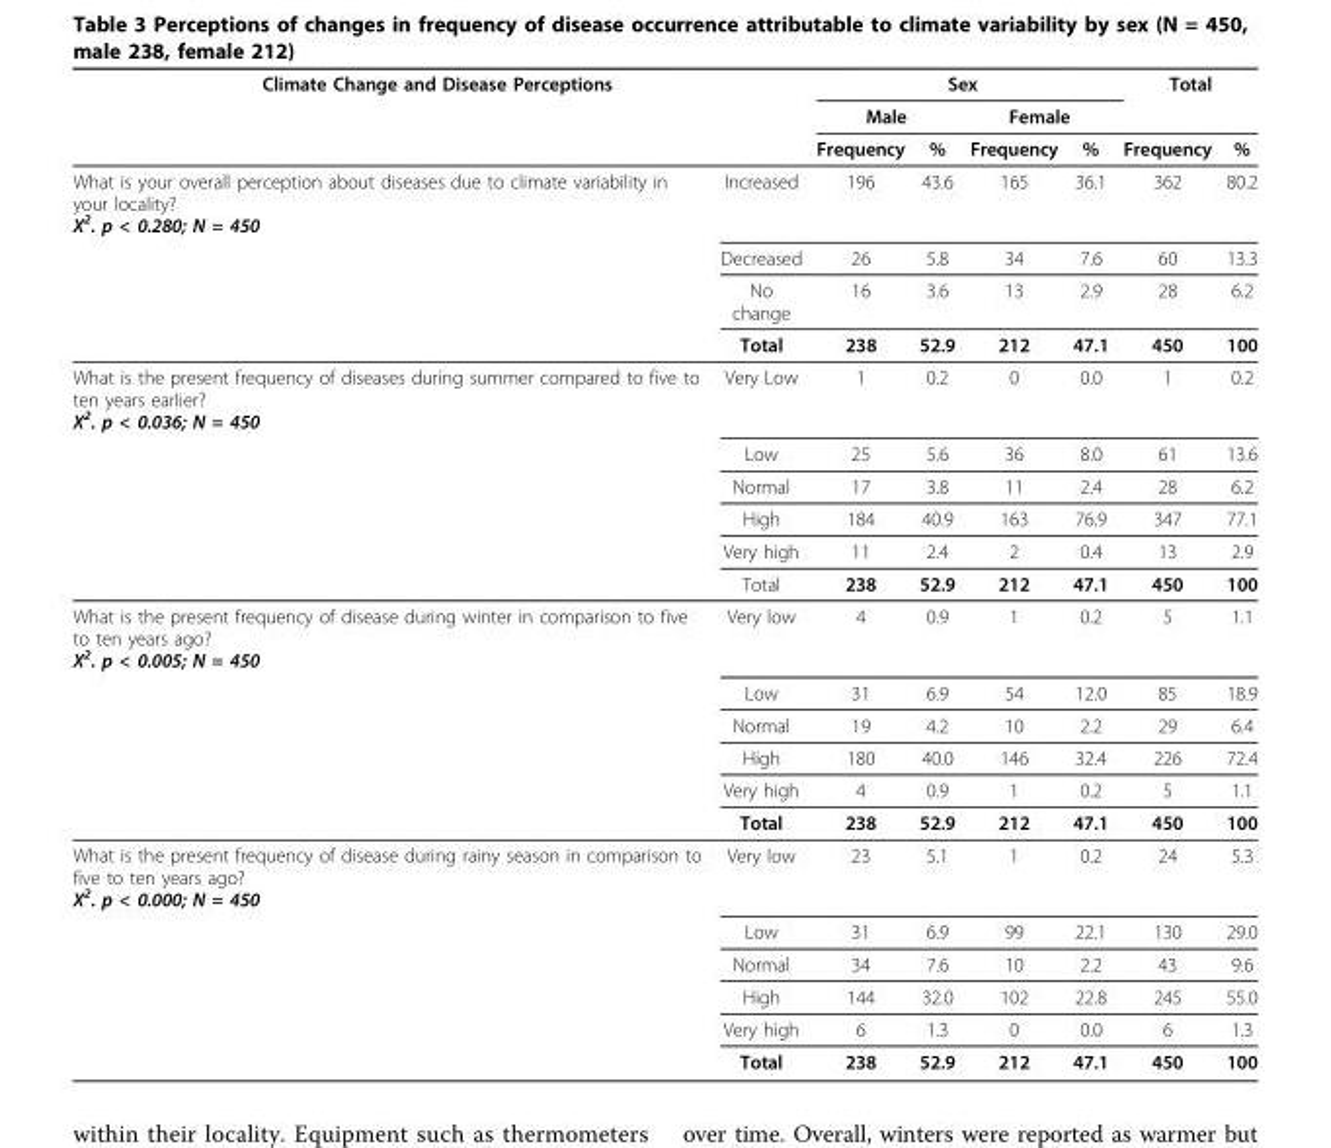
<table><thead><tr><td colspan="2">Climate Change and Disease Perceptions</td><td colspan="4">Sex</td><td colspan="2">Total</td></tr><tr><td rowspan="2"></td><td rowspan="2"></td><td colspan="2">Male</td><td colspan="2">Female</td><td rowspan="2">Frequency</td><td rowspan="2">%</td></tr><tr><td>Frequency</td><td>%</td><td>Frequency</td><td>%</td></tr></thead><tbody><tr><td rowspan="4">What is your overall perception about diseases due to climate variability in your locality? Χ2. p &lt; 0.280; N = 450</td><td>Increased</td><td>196</td><td>43.6</td><td>165</td><td>36.1</td><td>362</td><td>80.2</td></tr><tr><td>Decreased</td><td>26</td><td>5.8</td><td>34</td><td>7.6</td><td>60</td><td>13.3</td></tr><tr><td>No change</td><td>16</td><td>3.6</td><td>13</td><td>2.9</td><td>28</td><td>6.2</td></tr><tr><td>Total</td><td>238</td><td>52.9</td><td>212</td><td>47.1</td><td>450</td><td>100</td></tr><tr><td rowspan="6">What is the present frequency of diseases during summer compared to five to ten years earlier? Χ2. p &lt; 0.036; N = 450</td><td>Very Low</td><td>1</td><td>0.2</td><td>0</td><td>0.0</td><td>1</td><td>0.2</td></tr><tr><td>Low</td><td>25</td><td>5.6</td><td>36</td><td>8.0</td><td>61</td><td>13.6</td></tr><tr><td>Normal</td><td>17</td><td>3.8</td><td>11</td><td>2.4</td><td>28</td><td>6.2</td></tr><tr><td>High</td><td>184</td><td>40.9</td><td>163</td><td>76.9</td><td>347</td><td>77.1</td></tr><tr><td>Very high</td><td>11</td><td>2.4</td><td>2</td><td>0.4</td><td>13</td><td>2.9</td></tr><tr><td>Total</td><td>238</td><td>52.9</td><td>212</td><td>47.1</td><td>450</td><td>100</td></tr><tr><td rowspan="6">What is the present frequency of disease during winter in comparison to five to ten years ago? Χ2. p &lt; 0.005; N = 450</td><td>Very low</td><td>4</td><td>0.9</td><td>1</td><td>0.2</td><td>5</td><td>1.1</td></tr><tr><td>Low</td><td>31</td><td>6.9</td><td>54</td><td>12.0</td><td>85</td><td>18.9</td></tr><tr><td>Normal</td><td>19</td><td>4.2</td><td>10</td><td>2.2</td><td>29</td><td>6.4</td></tr><tr><td>High</td><td>180</td><td>40.0</td><td>146</td><td>32.4</td><td>226</td><td>72.4</td></tr><tr><td>Very high</td><td>4</td><td>0.9</td><td>1</td><td>0.2</td><td>5</td><td>1.1</td></tr><tr><td>Total</td><td>238</td><td>52.9</td><td>212</td><td>47.1</td><td>450</td><td>100</td></tr><tr><td rowspan="6">What is the present frequency of disease during rainy season in comparison to five to ten years ago? Χ2. p &lt; 0.000; N = 450</td><td>Very low</td><td>23</td><td>5.1</td><td>1</td><td>0.2</td><td>24</td><td>5.3</td></tr><tr><td>Low</td><td>31</td><td>6.9</td><td>99</td><td>22.1</td><td>130</td><td>29.0</td></tr><tr><td>Normal</td><td>34</td><td>7.6</td><td>10</td><td>2.2</td><td>43</td><td>9.6</td></tr><tr><td>High</td><td>144</td><td>32.0</td><td>102</td><td>22.8</td><td>245</td><td>55.0</td></tr><tr><td>Very high</td><td>6</td><td>1.3</td><td>0</td><td>0.0</td><td>6</td><td>1.3</td></tr><tr><td>Total</td><td>238</td><td>52.9</td><td>212</td><td>47.1</td><td>450</td><td>100</td></tr></tbody></table>